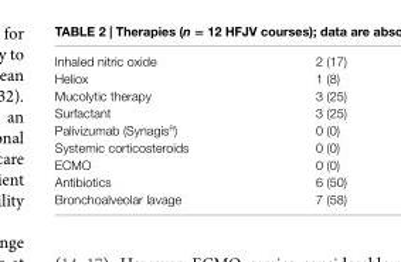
<table><tbody><tr><td>Inhaled nitric oxide</td><td>2 (17)</td></tr><tr><td>Heliox</td><td>1 (8)</td></tr><tr><td>Mucolytic therapy</td><td>3 (25)</td></tr><tr><td>Surfactant</td><td>3 (25)</td></tr><tr><td>Palivizumab (Synagis<sup>R</sup>)</td><td>0 (0)</td></tr><tr><td>Systemic corticosteroids</td><td>0 (0)</td></tr><tr><td>ECMO</td><td>0 (0)</td></tr><tr><td>Antibiotics</td><td>6 (50)</td></tr><tr><td>Bronchoalveolar lavage</td><td>7 (58)</td></tr></tbody></table>